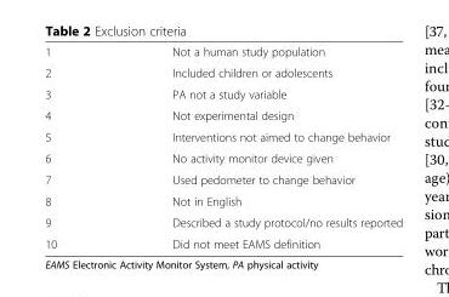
<table><tbody><tr><td>1</td><td>Not a human study population</td></tr><tr><td>2</td><td>Included children or adolescents</td></tr><tr><td>3</td><td>PA not a study variable</td></tr><tr><td>4</td><td>Not experimental design</td></tr><tr><td>5</td><td>Interventions not aimed to change behavior</td></tr><tr><td>6</td><td>No activity monitor device given</td></tr><tr><td>7</td><td>Used pedometer to change behavior</td></tr><tr><td>8</td><td>Not in English</td></tr><tr><td>9</td><td>Described a study protocol/no results reported</td></tr><tr><td>10</td><td>Did not meet EAMS definition</td></tr></tbody></table>